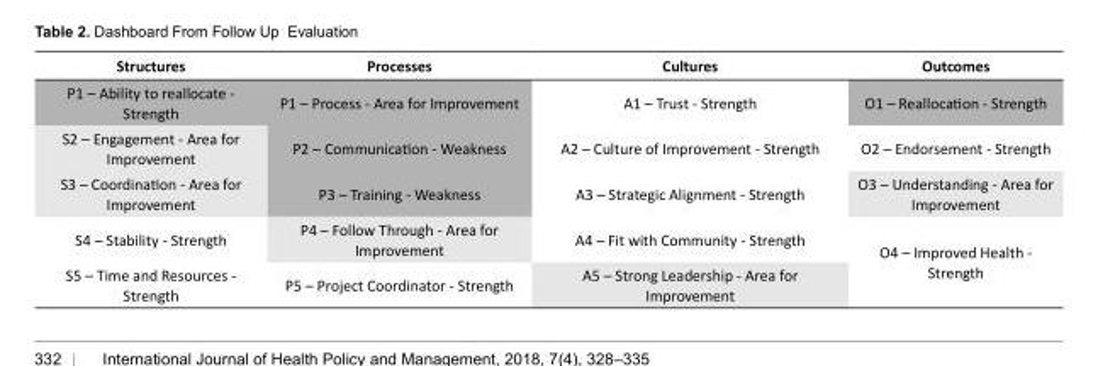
<table><tbody><tr><td>Structures</td><td>Processes</td><td>Cultures</td><td>Outcomes</td></tr><tr><td>P1 – Ability to reallocate - Strength</td><td>P1 – Process - Area for Improvement</td><td>A1 – Trust - Strength</td><td>O1 – Reallocation - Strength</td></tr><tr><td>S2 – Engagement - Area for Improvement</td><td>P2 – Communication - Weakness</td><td>A2 – Culture of Improvement - Strength</td><td>O2 – Endorsement - Strength</td></tr><tr><td>S3 – Coordination - Area for Improvement</td><td>P3 – Training - Weakness</td><td>A3 – Strategic Alignment - Strength</td><td>O3 – Understanding - Area for Improvement</td></tr><tr><td>S4 – Stability - Strength</td><td>P4 – Follow Through - Area for Improvement</td><td>A4 – Fit with Community - Strength</td><td rowspan="2">O4 – Improved Health - Strength</td></tr><tr><td>S5 – Time and Resources - Strength</td><td>P5 – Project Coordinator - Strength</td><td>A5 – Strong Leadership - Area for Improvement</td></tr></tbody></table>